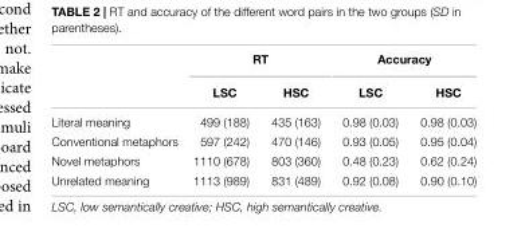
<table><thead><tr><td rowspan="2"></td><td colspan="2">RT</td><td colspan="2">Accuracy</td></tr><tr><td>LSC</td><td>HSC</td><td>LSC</td><td>HSC</td></tr></thead><tbody><tr><td>Literal meaning</td><td>499 (188)</td><td>435 (163)</td><td>0.98 (0.03)</td><td>0.98 (0.03)</td></tr><tr><td>Conventional metaphors</td><td>597 (242)</td><td>470 (146)</td><td>0.93 (0.05)</td><td>0.95 (0.04)</td></tr><tr><td>Novel metaphors</td><td>1110 (678)</td><td>803 (360)</td><td>0.48 (0.23)</td><td>0.62 (0.24)</td></tr><tr><td>Unrelated meaning</td><td>1113 (989)</td><td>831 (489)</td><td>0.92 (0.08)</td><td>0.90 (0.10)</td></tr></tbody></table>